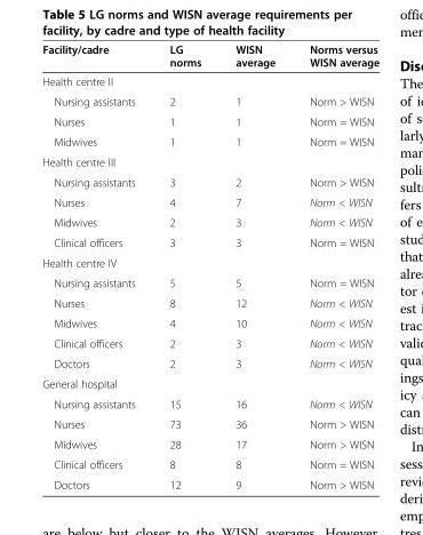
<table><thead><tr><td>Facility/cadre</td><td>LG norms</td><td>WISN average</td><td>Norms versus WISN average</td></tr></thead><tbody><tr><td colspan="4">Health centre II</td></tr><tr><td>Nursing assistants</td><td>2</td><td>1</td><td>Norm &gt; WISN</td></tr><tr><td>Nurses</td><td>1</td><td>1</td><td>Norm = WISN</td></tr><tr><td>Midwives</td><td>1</td><td>1</td><td>Norm = WISN</td></tr><tr><td colspan="4">Health centre III</td></tr><tr><td>Nursing assistants</td><td>3</td><td>2</td><td>Norm &gt; WISN</td></tr><tr><td>Nurses</td><td>4</td><td>7</td><td>Norm &lt; WISN</td></tr><tr><td>Midwives</td><td>2</td><td>3</td><td>Norm &lt; WISN</td></tr><tr><td>Clinical officers</td><td>3</td><td>3</td><td>Norm = WISN</td></tr><tr><td colspan="4">Health centre IV</td></tr><tr><td>Nursing assistants</td><td>5</td><td>5</td><td>Norm = WISN</td></tr><tr><td>Nurses</td><td>8</td><td>12</td><td>Norm &lt; WISN</td></tr><tr><td>Midwives</td><td>4</td><td>10</td><td>Norm &lt; WISN</td></tr><tr><td>Clinical officers</td><td>2</td><td>3</td><td>Norm &lt; WISN</td></tr><tr><td>Doctors</td><td>2</td><td>3</td><td>Norm &lt; WISN</td></tr><tr><td colspan="4">General hospital</td></tr><tr><td>Nursing assistants</td><td>15</td><td>16</td><td>Norm &lt; WISN</td></tr><tr><td>Nurses</td><td>73</td><td>36</td><td>Norm &gt; WISN</td></tr><tr><td>Midwives</td><td>28</td><td>17</td><td>Norm &gt; WISN</td></tr><tr><td>Clinical officers</td><td>8</td><td>8</td><td>Norm = WISN</td></tr><tr><td>Doctors</td><td>12</td><td>9</td><td>Norm &gt; WISN</td></tr></tbody></table>